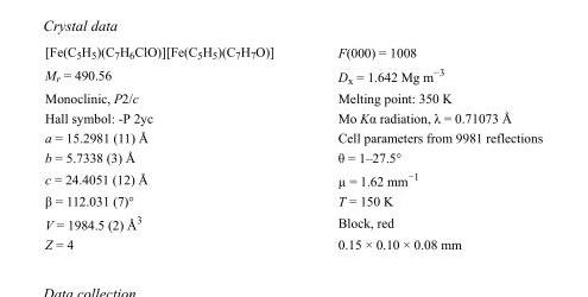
<table><tbody><tr><td>[Fe(C<sub>5</sub>H<sub>5</sub>)(C<sub>7</sub>H<sub>6</sub>ClO)][Fe(C<sub>5</sub>H<sub>5</sub>)(C<sub>7</sub>H<sub>7</sub>O)]</td><td>F(000) = 1008</td></tr><tr><td>M<sub>r</sub> = 490.56</td><td>D<sub>x</sub> = 1.642 Mg m<sup>−3</sup></td></tr><tr><td>Monoclinic, P2/c</td><td>Melting point: 350 K</td></tr><tr><td>Hall symbol: -P 2yc</td><td>Mo Kα radiation, λ = 0.71073 Å</td></tr><tr><td>a = 15.2981 (11) Å</td><td>Cell parameters from 9981 reflections</td></tr><tr><td>b = 5.7338 (3) Å</td><td>θ = 1–27.5°</td></tr><tr><td>c = 24.4051 (12) Å</td><td>µ = 1.62 mm<sup>−1</sup></td></tr><tr><td>β = 112.031 (7)°</td><td>T = 150 K</td></tr><tr><td>V = 1984.5 (2) Å<sup>3</sup></td><td>Block, red</td></tr><tr><td>Z = 4</td><td>0.15 × 0.10 × 0.08 mm</td></tr></tbody></table>